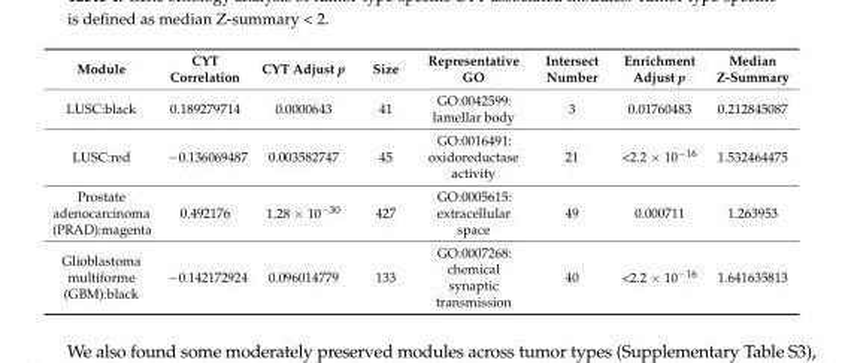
<table><thead><tr><td>Module</td><td>CYT Correlation</td><td>CYT Adjust p</td><td>Size</td><td>Representative GO</td><td>Intersect Number</td><td>Enrichment Adjust p</td><td>Median Z-Summary</td></tr></thead><tbody><tr><td>LUSC:black</td><td>0.189279714</td><td>0.0000643</td><td>41</td><td>GO:0042599: lamellar body</td><td>3</td><td>0.01760483</td><td>0.212845087</td></tr><tr><td>LUSC:red</td><td>−0.136069487</td><td>0.003582747</td><td>45</td><td>GO:0016491: oxidoreductase activity</td><td>21</td><td>&lt;2.2 × 10<sup>−16</sup></td><td>1.532464475</td></tr><tr><td>Prostate adenocarcinoma (PRAD):magenta</td><td>0.492176</td><td>1.28 × 10<sup>−30</sup></td><td>427</td><td>GO:0005615: extracellular space</td><td>49</td><td>0.000711</td><td>1.263953</td></tr><tr><td>Glioblastoma multiforme (GBM):black</td><td>−0.142172924</td><td>0.096014779</td><td>133</td><td>GO:0007268: chemical synaptic transmission</td><td>40</td><td>&lt;2.2 × 10<sup>−16</sup></td><td>1.641635813</td></tr></tbody></table>